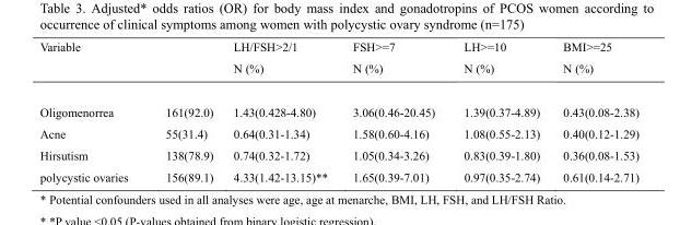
<table><thead><tr><td>Variable</td><td></td><td>LH/FSH&gt;2/1 N (%)</td><td>FSH&gt;=7 N (%)</td><td>LH&gt;=10 N (%)</td><td>BMI&gt;=25 N (%)</td></tr></thead><tbody><tr><td>Oligomenorrea</td><td>161(92.0)</td><td>1.43(0.428-4.80)</td><td>3.06(0.46-20.45)</td><td>1.39(0.37-4.89)</td><td>0.43(0.08-2.38)</td></tr><tr><td>Acne</td><td>55(31.4)</td><td>0.64(0.31-1.34)</td><td>1.58(0.60-4.16)</td><td>1.08(0.55-2.13)</td><td>0.40(0.12-1.29)</td></tr><tr><td>Hirsutism</td><td>138(78.9)</td><td>0.74(0.32-1.72)</td><td>1.05(0.34-3.26)</td><td>0.83(0.39-1.80)</td><td>0.36(0.08-1.53)</td></tr><tr><td>polycystic ovaries</td><td>156(89.1)</td><td>4.33(1.42-13.15)**</td><td>1.65(0.39-7.01)</td><td>0.97(0.35-2.74)</td><td>0.61(0.14-2.71)</td></tr></tbody></table>